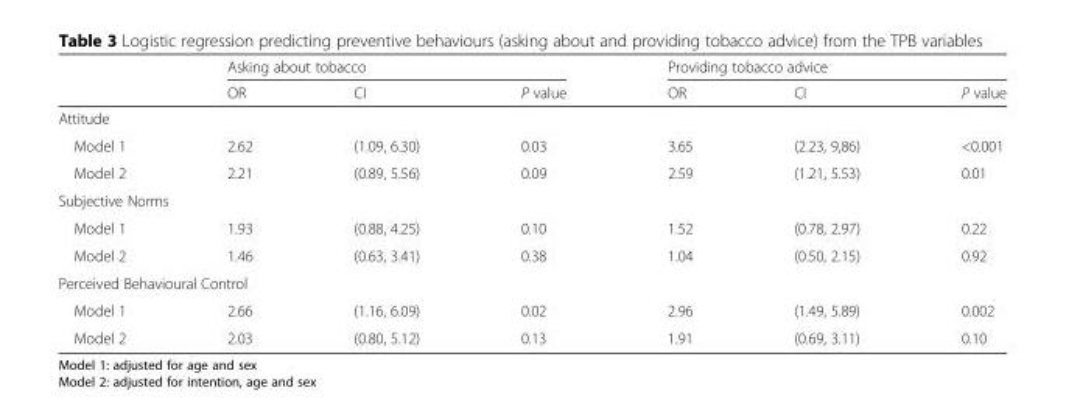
<table><thead><tr><td rowspan="2"></td><td colspan="3">Asking about tobacco</td><td colspan="3">Providing tobacco advice</td></tr><tr><td>OR</td><td>CI</td><td>P value</td><td>OR</td><td>CI</td><td>P value</td></tr></thead><tbody><tr><td colspan="7">Attitude</td></tr><tr><td>Model 1</td><td>2.62</td><td>(1.09, 6.30)</td><td>0.03</td><td>3.65</td><td>(2.23, 9,86)</td><td>&lt;0.001</td></tr><tr><td>Model 2</td><td>2.21</td><td>(0.89, 5.56)</td><td>0.09</td><td>2.59</td><td>(1.21, 5.53)</td><td>0.01</td></tr><tr><td colspan="7">Subjective Norms</td></tr><tr><td>Model 1</td><td>1.93</td><td>(0.88, 4.25)</td><td>0.10</td><td>1.52</td><td>(0.78, 2.97)</td><td>0.22</td></tr><tr><td>Model 2</td><td>1.46</td><td>(0.63, 3.41)</td><td>0.38</td><td>1.04</td><td>(0.50, 2.15)</td><td>0.92</td></tr><tr><td colspan="7">Perceived Behavioural Control</td></tr><tr><td>Model 1</td><td>2.66</td><td>(1.16, 6.09)</td><td>0.02</td><td>2.96</td><td>(1.49, 5.89)</td><td>0.002</td></tr><tr><td>Model 2</td><td>2.03</td><td>(0.80, 5.12)</td><td>0.13</td><td>1.91</td><td>(0.69, 3.11)</td><td>0.10</td></tr></tbody></table>